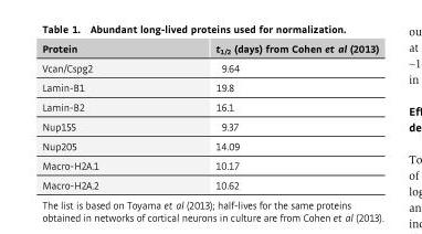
<table><thead><tr><td>Protein</td><td>t<sub>1/2</sub> (days) from Cohen et al (2013)</td></tr></thead><tbody><tr><td>Vcan/Cspg2</td><td>9.64</td></tr><tr><td>Lamin-B1</td><td>19.8</td></tr><tr><td>Lamin-B2</td><td>16.1</td></tr><tr><td>Nup155</td><td>9.37</td></tr><tr><td>Nup205</td><td>14.09</td></tr><tr><td>Macro-H2A.1</td><td>10.17</td></tr><tr><td>Macro-H2A.2</td><td>10.62</td></tr></tbody></table>